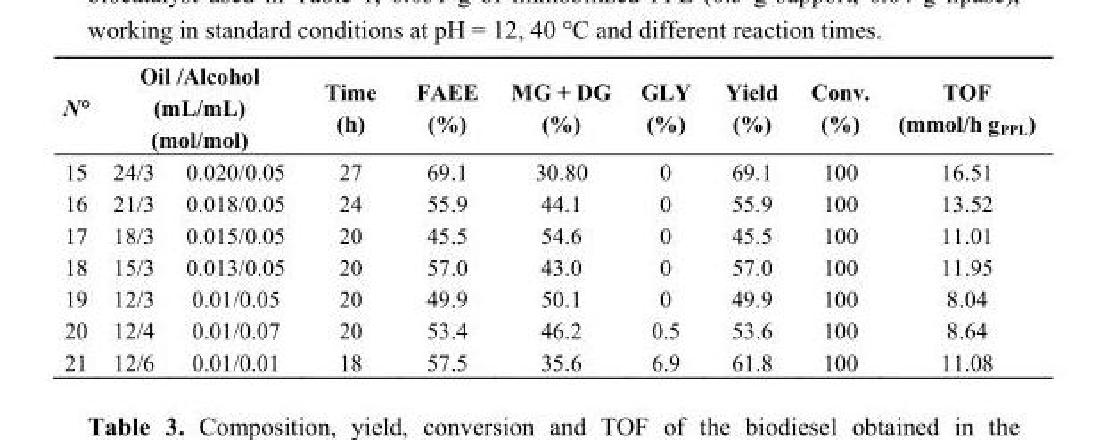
<table><thead><tr><td rowspan="2">N° 15</td><td colspan="2">Oil /Alcohol (mL/mL) (mol/mol)</td><td rowspan="2">Time (h) 27</td><td rowspan="2">FAEE (%) 69.1</td><td rowspan="2">MG + DG (%) 30.80</td><td rowspan="2">GLY (%) 0</td><td rowspan="2">Yield (%) 69.1</td><td rowspan="2">Conv. (%) 100</td><td rowspan="2">TOF (mmol/h g<sub>PPL</sub>) 16.51</td></tr><tr><td>24/3</td><td>0.020/0.05</td></tr></thead><tbody><tr><td>16</td><td>21/3</td><td>0.018/0.05</td><td>24</td><td>55.9</td><td>44.1</td><td>0</td><td>55.9</td><td>100</td><td>13.52</td></tr><tr><td>17</td><td>18/3</td><td>0.015/0.05</td><td>20</td><td>45.5</td><td>54.6</td><td>0</td><td>45.5</td><td>100</td><td>11.01</td></tr><tr><td>18</td><td>15/3</td><td>0.013/0.05</td><td>20</td><td>57.0</td><td>43.0</td><td>0</td><td>57.0</td><td>100</td><td>11.95</td></tr><tr><td>19</td><td>12/3</td><td>0.01/0.05</td><td>20</td><td>49.9</td><td>50.1</td><td>0</td><td>49.9</td><td>100</td><td>8.04</td></tr><tr><td>20</td><td>12/4</td><td>0.01/0.07</td><td>20</td><td>53.4</td><td>46.2</td><td>0.5</td><td>53.6</td><td>100</td><td>8.64</td></tr><tr><td>21</td><td>12/6</td><td>0.01/0.01</td><td>18</td><td>57.5</td><td>35.6</td><td>6.9</td><td>61.8</td><td>100</td><td>11.08</td></tr></tbody></table>